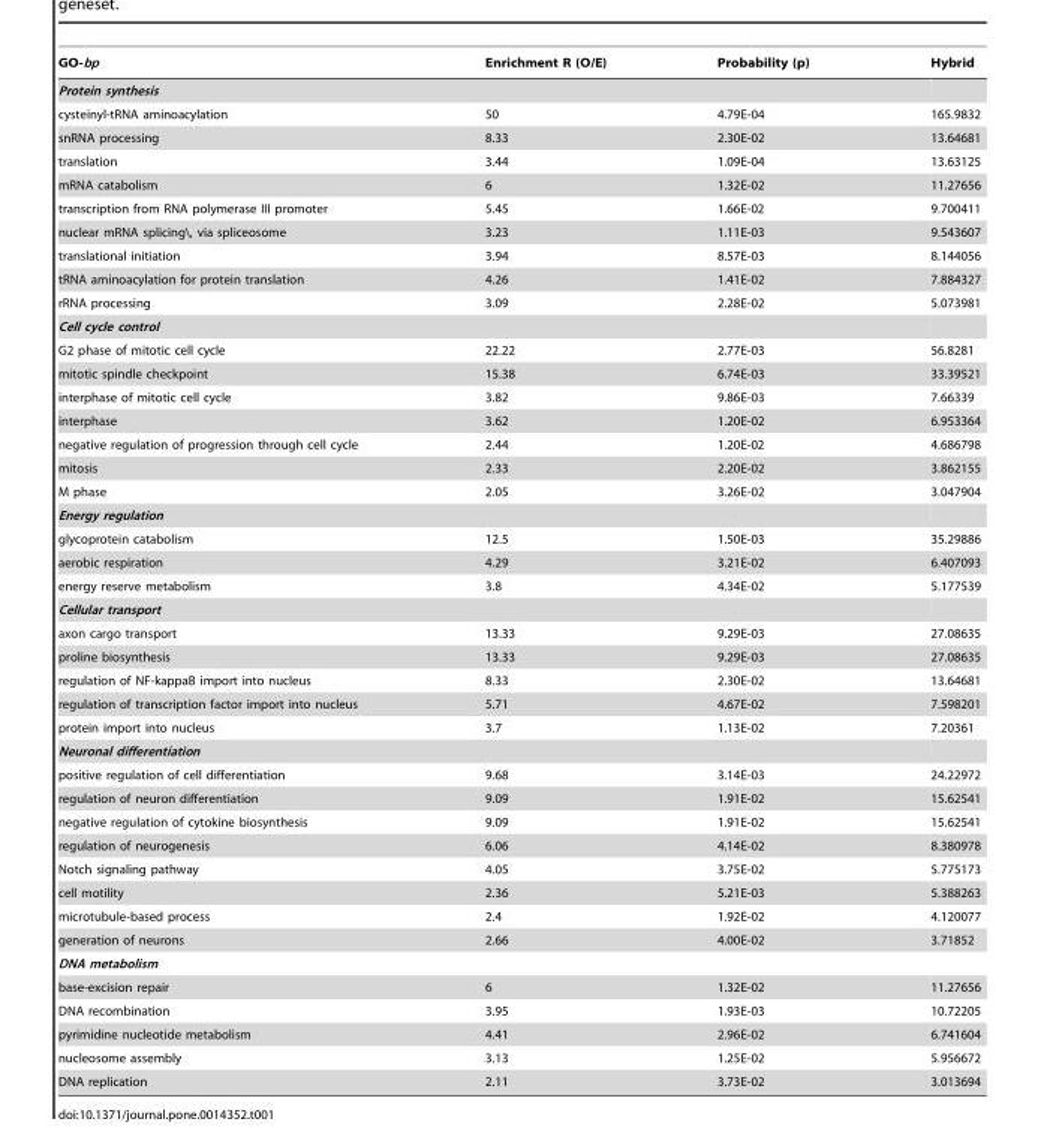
<table><thead><tr><td>GO-bp</td><td>Enrichment R (O/E)</td><td>Probability (p)</td><td>Hybrid</td></tr></thead><tbody><tr><td colspan="4">Protein synthesis</td></tr><tr><td>cysteinyl-tRNA aminoacylation</td><td>50</td><td>4.79E-04</td><td>165.9832</td></tr><tr><td>snRNA processing</td><td>8.33</td><td>2.30E-02</td><td>13.64681</td></tr><tr><td>translation</td><td>3.44</td><td>1.09E-04</td><td>13.63125</td></tr><tr><td>mRNA catabolism</td><td>6</td><td>1.32E-02</td><td>11.27656</td></tr><tr><td>transcription from RNA polymerase III promoter</td><td>5.45</td><td>1.66E-02</td><td>9.700411</td></tr><tr><td>nuclear mRNA splicing\, via spliceosome</td><td>3.23</td><td>1.11E-03</td><td>9.543607</td></tr><tr><td>translational initiation</td><td>3.94</td><td>8.57E-03</td><td>8.144056</td></tr><tr><td>tRNA aminoacylation for protein translation</td><td>4.26</td><td>1.41E-02</td><td>7.884327</td></tr><tr><td>rRNA processing</td><td>3.09</td><td>2.28E-02</td><td>5.073981</td></tr><tr><td colspan="4">Cell cycle control</td></tr><tr><td>G2 phase of mitotic cell cycle</td><td>22.22</td><td>2.77E-03</td><td>56.8281</td></tr><tr><td>mitotic spindle checkpoint</td><td>15.38</td><td>6.74E-03</td><td>33.39521</td></tr><tr><td>interphase of mitotic cell cycle</td><td>3.82</td><td>9.86E-03</td><td>7.66339</td></tr><tr><td>interphase</td><td>3.62</td><td>1.20E-02</td><td>6.953364</td></tr><tr><td>negative regulation of progression through cell cycle</td><td>2.44</td><td>1.20E-02</td><td>4.686798</td></tr><tr><td>mitosis</td><td>2.33</td><td>2.20E-02</td><td>3.862155</td></tr><tr><td>M phase</td><td>2.05</td><td>3.26E-02</td><td>3.047904</td></tr><tr><td colspan="4">Energy regulation</td></tr><tr><td>glycoprotein catabolism</td><td>12.5</td><td>1.50E-03</td><td>35.29886</td></tr><tr><td>aerobic respiration</td><td>4.29</td><td>3.21E-02</td><td>6.407093</td></tr><tr><td>energy reserve metabolism</td><td>3.8</td><td>4.34E-02</td><td>5.177539</td></tr><tr><td colspan="4">Cellular transport</td></tr><tr><td>axon cargo transport</td><td>13.33</td><td>9.29E-03</td><td>27.08635</td></tr><tr><td>proline biosynthesis</td><td>13.33</td><td>9.29E-03</td><td>27.08635</td></tr><tr><td>regulation of NF-kappaB import into nucleus</td><td>8.33</td><td>2.30E-02</td><td>13.64681</td></tr><tr><td>regulation of transcription factor import into nucleus</td><td>5.71</td><td>4.67E-02</td><td>7.598201</td></tr><tr><td>protein import into nucleus</td><td>3.7</td><td>1.13E-02</td><td>7.20361</td></tr><tr><td colspan="4">Neuronal differentiation</td></tr><tr><td>positive regulation of cell differentiation</td><td>9.68</td><td>3.14E-03</td><td>24.22972</td></tr><tr><td>regulation of neuron differentiation</td><td>9.09</td><td>1.91E-02</td><td>15.62541</td></tr><tr><td>negative regulation of cytokine biosynthesis</td><td>9.09</td><td>1.91E-02</td><td>15.62541</td></tr><tr><td>regulation of neurogenesis</td><td>6.06</td><td>4.14E-02</td><td>8.380978</td></tr><tr><td>Notch signaling pathway</td><td>4.05</td><td>3.75E-02</td><td>5.775173</td></tr><tr><td>cell motility</td><td>2.36</td><td>5.21E-03</td><td>5.388263</td></tr><tr><td>microtubule-based process</td><td>2.4</td><td>1.92E-02</td><td>4.120077</td></tr><tr><td>generation of neurons</td><td>2.66</td><td>4.00E-02</td><td>3.71852</td></tr><tr><td colspan="4">DNA metabolism</td></tr><tr><td>base-excision repair</td><td>6</td><td>1.32E-02</td><td>11.27656</td></tr><tr><td>DNA recombination</td><td>3.95</td><td>1.93E-03</td><td>10.72205</td></tr><tr><td>pyrimidine nucleotide metabolism</td><td>4.41</td><td>2.96E-02</td><td>6.741604</td></tr><tr><td>nucleosome assembly</td><td>3.13</td><td>1.25E-02</td><td>5.956672</td></tr><tr><td>DNA replication</td><td>2.11</td><td>3.73E-02</td><td>3.013694</td></tr></tbody></table>